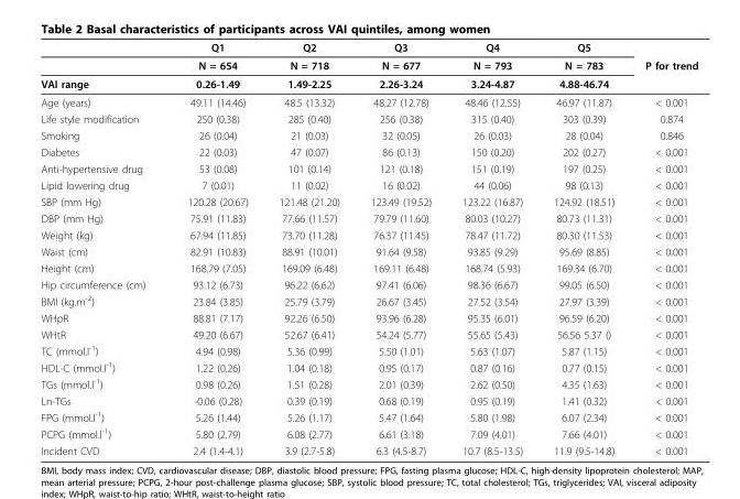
<table><thead><tr><td rowspan="3">VAI range</td><td rowspan="3">Q1 N = 654 0.26-1.49</td><td rowspan="3">Q2 N = 718 1.49-2.25</td><td rowspan="3">Q3 N = 677 2.26-3.24</td><td rowspan="3">Q4 N = 793 3.24-4.87</td><td rowspan="3">Q5 N = 783 4.88-46.74</td><td rowspan="3">P for trend</td></tr><tr></tr><tr></tr></thead><tbody><tr><td>Age (years)</td><td>49.11 (14.46)</td><td>48.5 (13.32)</td><td>48.27 (12.78)</td><td>48.46 (12.55)</td><td>46.97 (11.87)</td><td>&lt; 0.001</td></tr><tr><td>Life style modification</td><td>250 (0.38)</td><td>285 (0.40)</td><td>256 (0.38)</td><td>315 (0.40)</td><td>303 (0.39)</td><td>0.874</td></tr><tr><td>Smoking</td><td>26 (0.04)</td><td>21 (0.03)</td><td>32 (0.05)</td><td>26 (0.03)</td><td>28 (0.04)</td><td>0.846</td></tr><tr><td>Diabetes</td><td>22 (0.03)</td><td>47 (0.07)</td><td>86 (0.13)</td><td>150 (0.20)</td><td>202 (0.27)</td><td>&lt; 0.001</td></tr><tr><td>Anti-hypertensive drug</td><td>53 (0.08)</td><td>101 (0.14)</td><td>121 (0.18)</td><td>151 (0.19)</td><td>197 (0.25)</td><td>&lt; 0.001</td></tr><tr><td>Lipid lowering drug</td><td>7 (0.01)</td><td>11 (0.02)</td><td>16 (0.02)</td><td>44 (0.06)</td><td>98 (0.13)</td><td>&lt; 0.001</td></tr><tr><td>SBP (mm Hg)</td><td>120.28 (20.67)</td><td>121.48 (21.20)</td><td>123.49 (19.52)</td><td>123.22 (16.87)</td><td>124.92 (18.51)</td><td>&lt; 0.001</td></tr><tr><td>DBP (mm Hg)</td><td>75.91 (11.83)</td><td>77.66 (11.57)</td><td>79.79 (11.60)</td><td>80.03 (10.27)</td><td>80.73 (11.31)</td><td>&lt; 0.001</td></tr><tr><td>Weight (kg)</td><td>67.94 (11.85)</td><td>73.70 (11.28)</td><td>76.37 (11.45)</td><td>78.47 (11.72)</td><td>80.30 (11.53)</td><td>&lt; 0.001</td></tr><tr><td>Waist (cm)</td><td>82.91 (10.83)</td><td>88.91 (10.01)</td><td>91.64 (9.58)</td><td>93.85 (9.29)</td><td>95.69 (8.85)</td><td>&lt; 0.001</td></tr><tr><td>Height (cm)</td><td>168.79 (7.05)</td><td>169.09 (6.48)</td><td>169.11 (6.48)</td><td>168.74 (5.93)</td><td>169.34 (6.70)</td><td>&lt; 0.001</td></tr><tr><td>Hip circumference (cm)</td><td>93.12 (6.73)</td><td>96.22 (6.62)</td><td>97.41 (6.06)</td><td>98.36 (6.67)</td><td>99.05 (6.50)</td><td>&lt; 0.001</td></tr><tr><td>BMI (kg.m<sup>-2</sup>)</td><td>23.84 (3.85)</td><td>25.79 (3.79)</td><td>26.67 (3.45)</td><td>27.52 (3.54)</td><td>27.97 (3.39)</td><td>&lt; 0.001</td></tr><tr><td>WHpR</td><td>88.81 (7.17)</td><td>92.26 (6.50)</td><td>93.96 (6.28)</td><td>95.35 (6.01)</td><td>96.59 (6.20)</td><td>&lt; 0.001</td></tr><tr><td>WHtR</td><td>49.20 (6.67)</td><td>52.67 (6.41)</td><td>54.24 (5.77)</td><td>55.65 (5.43)</td><td>56.56 5.37 ()</td><td>&lt; 0.001</td></tr><tr><td>TC (mmol.l<sup>-1</sup>)</td><td>4.94 (0.98)</td><td>5.36 (0.99)</td><td>5.50 (1.01)</td><td>5.63 (1.07)</td><td>5.87 (1.15)</td><td>&lt; 0.001</td></tr><tr><td>HDL-C (mmol.l<sup>-1</sup>)</td><td>1.22 (0.26)</td><td>1.04 (0.18)</td><td>0.95 (0.17)</td><td>0.87 (0.16)</td><td>0.77 (0.15)</td><td>&lt; 0.001</td></tr><tr><td>TGs (mmol.l<sup>-1</sup>)</td><td>0.98 (0.26)</td><td>1.51 (0.28)</td><td>2.01 (0.39)</td><td>2.62 (0.50)</td><td>4.35 (1.63)</td><td>&lt; 0.001</td></tr><tr><td>Ln-TGs</td><td>-0.06 (0.28)</td><td>0.39 (0.19)</td><td>0.68 (0.19)</td><td>0.95 (0.19)</td><td>1.41 (0.32)</td><td>&lt; 0.001</td></tr><tr><td>FPG (mmol.l<sup>-1</sup>)</td><td>5.26 (1.44)</td><td>5.26 (1.17)</td><td>5.47 (1.64)</td><td>5.80 (1.98)</td><td>6.07 (2.34)</td><td>&lt; 0.001</td></tr><tr><td>PCPG (mmol.l<sup>-1</sup>)</td><td>5.80 (2.79)</td><td>6.08 (2.77)</td><td>6.61 (3.18)</td><td>7.09 (4.01)</td><td>7.66 (4.01)</td><td>&lt; 0.001</td></tr><tr><td>Incident CVD</td><td>2.4 (1.4-4.1)</td><td>3.9 (2.7-5.8)</td><td>6.3 (4.5-8.7)</td><td>10.7 (8.5-13.5)</td><td>11.9 (9.5-14.8)</td><td>&lt; 0.001</td></tr></tbody></table>